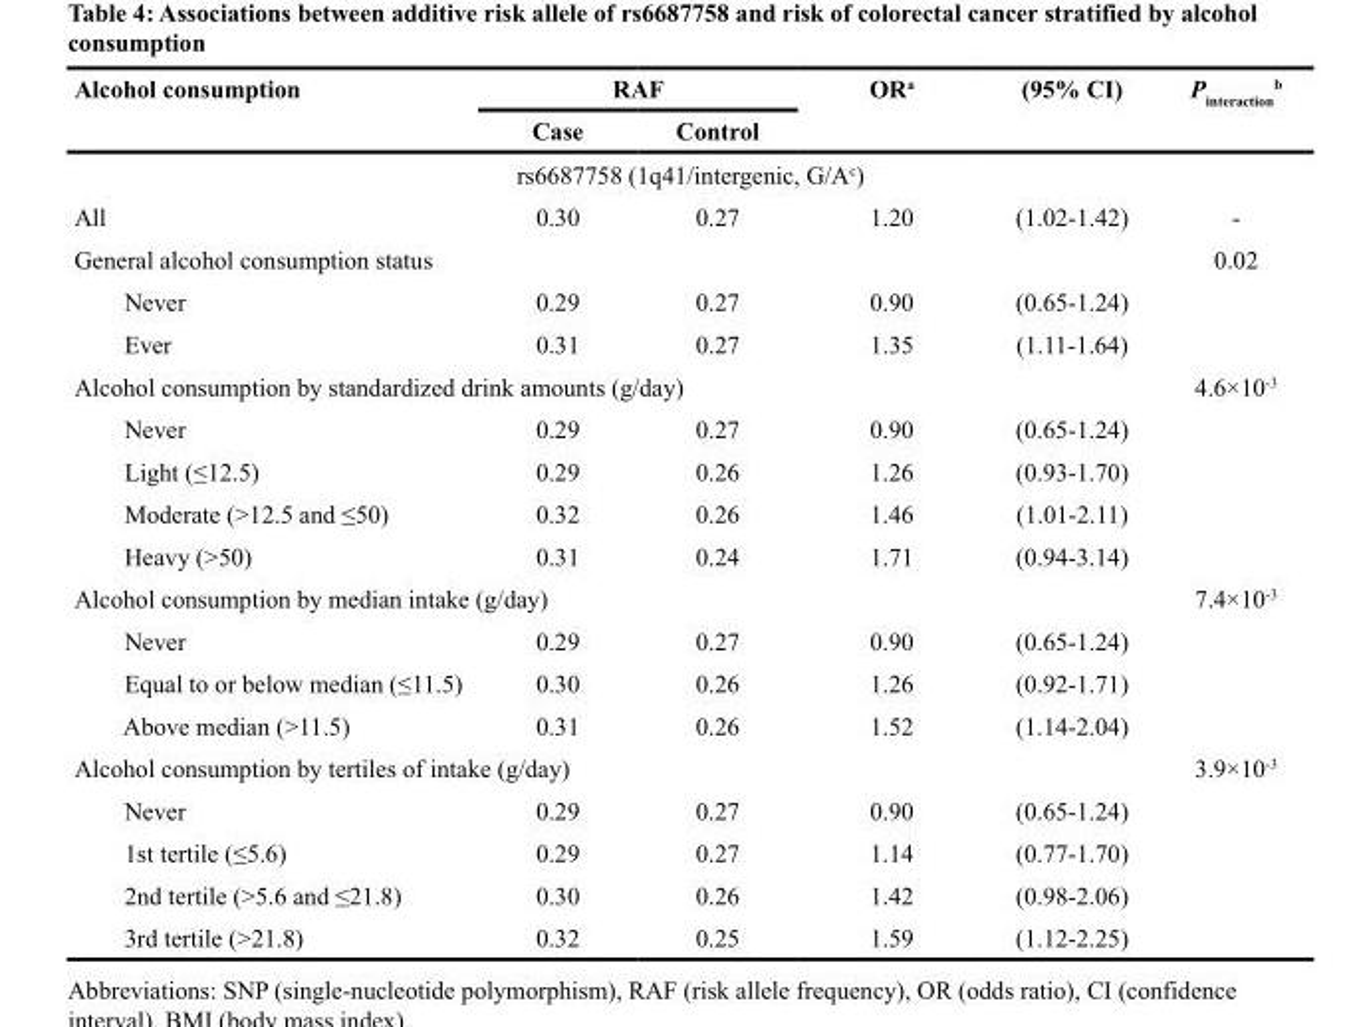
<table><thead><tr><td rowspan="2">Alcohol consumption</td><td colspan="2">RAF</td><td rowspan="2">OR<sup>a</sup></td><td rowspan="2">(95% CI)</td><td rowspan="2">P<sub>interaction</sub> <sup>b</sup></td></tr><tr><td>Case</td><td>Control</td></tr></thead><tbody><tr><td colspan="6">rs6687758 (1q41/intergenic, G/A<sup>c</sup>)</td></tr><tr><td>All</td><td>0.30</td><td>0.27</td><td>1.20</td><td>(1.02-1.42)</td><td>-</td></tr><tr><td colspan="5">General alcohol consumption status</td><td>0.02</td></tr><tr><td>Never</td><td>0.29</td><td>0.27</td><td>0.90</td><td>(0.65-1.24)</td><td></td></tr><tr><td>Ever</td><td>0.31</td><td>0.27</td><td>1.35</td><td>(1.11-1.64)</td><td></td></tr><tr><td colspan="5">Alcohol consumption by standardized drink amounts (g/day)</td><td>4.6×10<sup>-3</sup></td></tr><tr><td>Never</td><td>0.29</td><td>0.27</td><td>0.90</td><td>(0.65-1.24)</td><td></td></tr><tr><td>Light (≤12.5)</td><td>0.29</td><td>0.26</td><td>1.26</td><td>(0.93-1.70)</td><td></td></tr><tr><td>Moderate (&gt;12.5 and ≤50)</td><td>0.32</td><td>0.26</td><td>1.46</td><td>(1.01-2.11)</td><td></td></tr><tr><td>Heavy (&gt;50)</td><td>0.31</td><td>0.24</td><td>1.71</td><td>(0.94-3.14)</td><td></td></tr><tr><td colspan="5">Alcohol consumption by median intake (g/day)</td><td>7.4×10<sup>-3</sup></td></tr><tr><td>Never</td><td>0.29</td><td>0.27</td><td>0.90</td><td>(0.65-1.24)</td><td></td></tr><tr><td>Equal to or below median (≤11.5)</td><td>0.30</td><td>0.26</td><td>1.26</td><td>(0.92-1.71)</td><td></td></tr><tr><td>Above median (&gt;11.5)</td><td>0.31</td><td>0.26</td><td>1.52</td><td>(1.14-2.04)</td><td></td></tr><tr><td colspan="5">Alcohol consumption by tertiles of intake (g/day)</td><td>3.9×10<sup>-3</sup></td></tr><tr><td>Never</td><td>0.29</td><td>0.27</td><td>0.90</td><td>(0.65-1.24)</td><td></td></tr><tr><td>1st tertile (≤5.6)</td><td>0.29</td><td>0.27</td><td>1.14</td><td>(0.77-1.70)</td><td></td></tr><tr><td>2nd tertile (&gt;5.6 and ≤21.8)</td><td>0.30</td><td>0.26</td><td>1.42</td><td>(0.98-2.06)</td><td></td></tr><tr><td>3rd tertile (&gt;21.8)</td><td>0.32</td><td>0.25</td><td>1.59</td><td>(1.12-2.25)</td><td></td></tr></tbody></table>